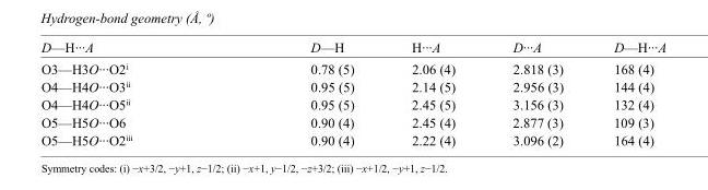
<table><tbody><tr><td>D—H···A</td><td>D—H</td><td>H···A</td><td>D···A</td><td>D—H···A</td></tr><tr><td>O3—H3O···O2<sup>i</sup></td><td>0.78 (5)</td><td>2.06 (4)</td><td>2.818 (3)</td><td>168 (4)</td></tr><tr><td>O4—H4O···O3<sup>ii</sup></td><td>0.95 (5)</td><td>2.14 (5)</td><td>2.956 (3)</td><td>144 (4)</td></tr><tr><td>O4—H4O···O5<sup>ii</sup></td><td>0.95 (5)</td><td>2.45 (5)</td><td>3.156 (3)</td><td>132 (4)</td></tr><tr><td>O5—H5O···O6</td><td>0.90 (4)</td><td>2.45 (4)</td><td>2.877 (3)</td><td>109 (3)</td></tr><tr><td>O5—H5O···O2<sup>iii</sup></td><td>0.90 (4)</td><td>2.22 (4)</td><td>3.096 (2)</td><td>164 (4)</td></tr></tbody></table>